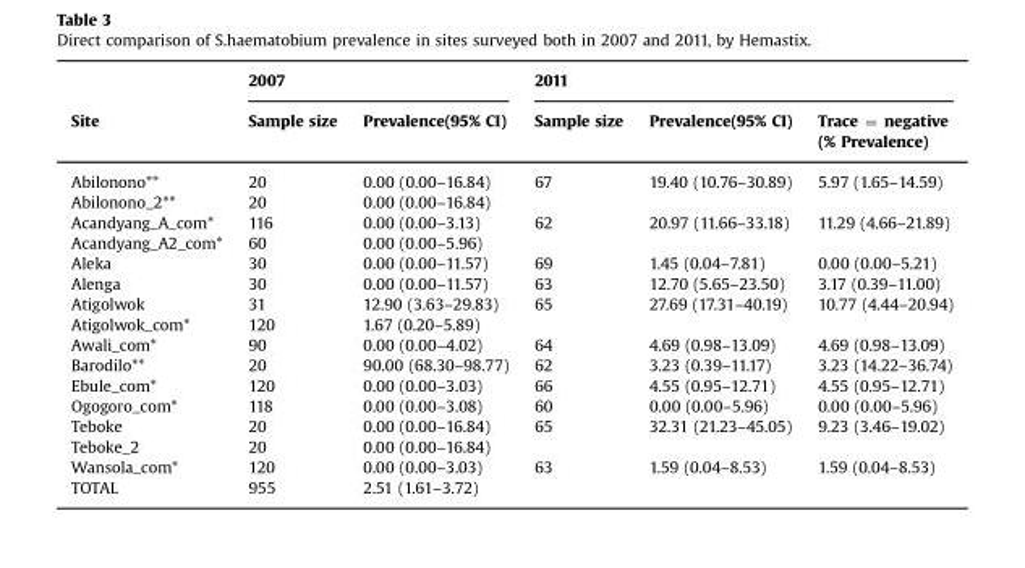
<table><thead><tr><td rowspan="2">Site</td><td colspan="2">2007</td><td colspan="3">2011</td></tr><tr><td>Sample size</td><td>Prevalence(95% CI)</td><td>Sample size</td><td>Prevalence(95% CI)</td><td>Trace = negative (% Prevalence)</td></tr></thead><tbody><tr><td>Abilonono**</td><td>20</td><td>0.00 (0.00–16.84)</td><td rowspan="2">67</td><td rowspan="2">19.40 (10.76–30.89)</td><td rowspan="2">5.97 (1.65–14.59)</td></tr><tr><td>Abilonono_2**</td><td>20</td><td>0.00 (0.00–16.84)</td></tr><tr><td>Acandyang_A_com*</td><td>116</td><td>0.00 (0.00–3.13)</td><td rowspan="2">62</td><td rowspan="2">20.97 (11.66–33.18)</td><td rowspan="2">11.29 (4.66–21.89)</td></tr><tr><td>Acandyang_A2_com*</td><td>60</td><td>0.00 (0.00–5.96)</td></tr><tr><td>Aleka</td><td>30</td><td>0.00 (0.00–11.57)</td><td>69</td><td>1.45 (0.04–7.81)</td><td>0.00 (0.00–5.21)</td></tr><tr><td>Alenga</td><td>30</td><td>0.00 (0.00–11.57)</td><td>63</td><td>12.70 (5.65–23.50)</td><td>3.17 (0.39–11.00)</td></tr><tr><td>Atigolwok</td><td>31</td><td>12.90 (3.63–29.83)</td><td rowspan="2">65</td><td rowspan="2">27.69 (17.31–40.19)</td><td rowspan="2">10.77 (4.44–20.94)</td></tr><tr><td>Atigolwok_com*</td><td>120</td><td>1.67 (0.20–5.89)</td></tr><tr><td>Awali_com*</td><td>90</td><td>0.00 (0.00–4.02)</td><td>64</td><td>4.69 (0.98–13.09)</td><td>4.69 (0.98–13.09)</td></tr><tr><td>Barodilo**</td><td>20</td><td>90.00 (68.30–98.77)</td><td>62</td><td>3.23 (0.39–11.17)</td><td>3.23 (14.22–36.74)</td></tr><tr><td>Ebule_com*</td><td>120</td><td>0.00 (0.00–3.03)</td><td>66</td><td>4.55 (0.95–12.71)</td><td>4.55 (0.95–12.71)</td></tr><tr><td>Ogogoro_com*</td><td>118</td><td>0.00 (0.00–3.08)</td><td>60</td><td>0.00 (0.00–5.96)</td><td>0.00 (0.00–5.96)</td></tr><tr><td>Teboke</td><td>20</td><td>0.00 (0.00–16.84)</td><td rowspan="2">65</td><td rowspan="2">32.31 (21.23–45.05)</td><td rowspan="2">9.23 (3.46–19.02)</td></tr><tr><td>Teboke_2</td><td>20</td><td>0.00 (0.00–16.84)</td></tr><tr><td>Wansola_com*</td><td>120</td><td>0.00 (0.00–3.03)</td><td>63</td><td>1.59 (0.04–8.53)</td><td>1.59 (0.04–8.53)</td></tr><tr><td>TOTAL</td><td>955</td><td>2.51 (1.61–3.72)</td><td></td><td></td><td></td></tr></tbody></table>